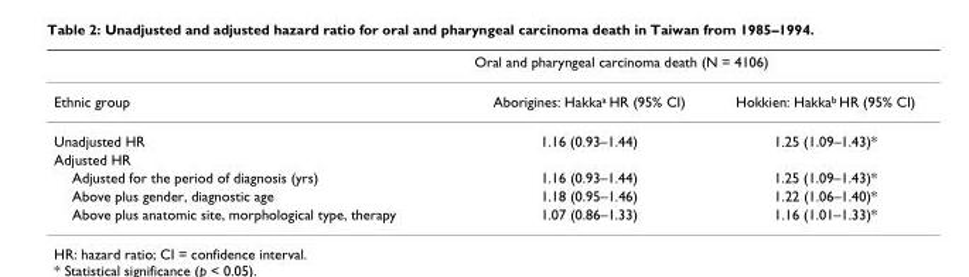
<table><thead><tr><td rowspan="2">Ethnic group</td><td colspan="2">Oral and pharyngeal carcinoma death (N = 4106)</td></tr><tr><td>Aborigines: Hakka<sup>a</sup> HR (95% CI)</td><td>Hokkien: Hakka<sup>b</sup> HR (95% CI)</td></tr></thead><tbody><tr><td>Unadjusted HR</td><td>1.16 (0.93–1.44)</td><td>1.25 (1.09–1.43)*</td></tr><tr><td colspan="3">Adjusted HR</td></tr><tr><td>Adjusted for the period of diagnosis (yrs)</td><td>1.16 (0.93–1.44)</td><td>1.25 (1.09–1.43)*</td></tr><tr><td>Above plus gender, diagnostic age</td><td>1.18 (0.95–1.46)</td><td>1.22 (1.06–1.40)*</td></tr><tr><td>Above plus anatomic site, morphological type, therapy</td><td>1.07 (0.86–1.33)</td><td>1.16 (1.01–1.33)*</td></tr></tbody></table>